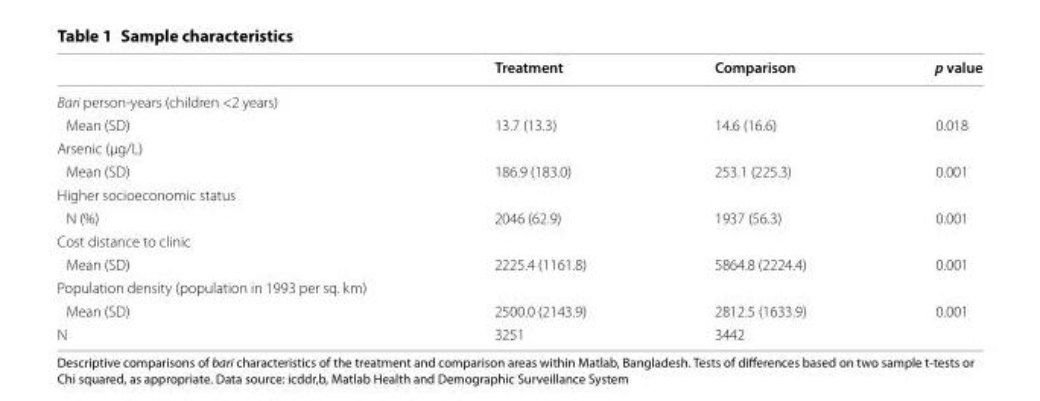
<table><thead><tr><td></td><td>Treatment</td><td>Comparison</td><td>p value</td></tr></thead><tbody><tr><td colspan="4">Bari person-years (children &lt;2 years)</td></tr><tr><td>Mean (SD)</td><td>13.7 (13.3)</td><td>14.6 (16.6)</td><td>0.018</td></tr><tr><td colspan="4">Arsenic (µg/L)</td></tr><tr><td>Mean (SD)</td><td>186.9 (183.0)</td><td>253.1 (225.3)</td><td>0.001</td></tr><tr><td colspan="4">Higher socioeconomic status</td></tr><tr><td>N (%)</td><td>2046 (62.9)</td><td>1937 (56.3)</td><td>0.001</td></tr><tr><td colspan="4">Cost distance to clinic</td></tr><tr><td>Mean (SD)</td><td>2225.4 (1161.8)</td><td>5864.8 (2224.4)</td><td>0.001</td></tr><tr><td colspan="4">Population density (population in 1993 per sq. km)</td></tr><tr><td>Mean (SD)</td><td>2500.0 (2143.9)</td><td>2812.5 (1633.9)</td><td>0.001</td></tr><tr><td>N</td><td>3251</td><td>3442</td><td></td></tr></tbody></table>